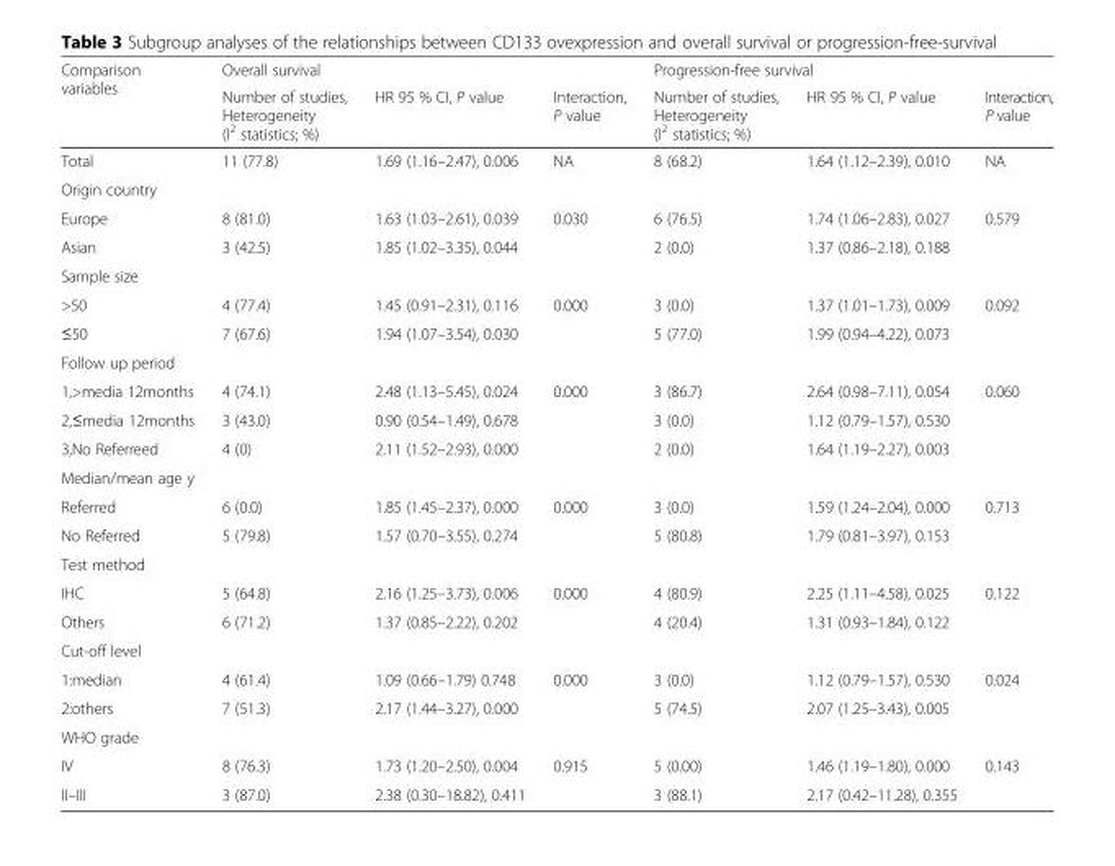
<table><thead><tr><td rowspan="2">Comparison variables</td><td colspan="3">Overall survival</td><td colspan="3">Progression-free survival</td></tr><tr><td>Number of studies, Heterogeneity (I<sup>2</sup> statistics; %)</td><td>HR 95 % CI, P value</td><td>Interaction, P value</td><td>Number of studies, Heterogeneity (I<sup>2</sup> statistics; %)</td><td>HR 95 % CI, P value</td><td>Interaction, P value</td></tr></thead><tbody><tr><td>Total</td><td>11 (77.8)</td><td>1.69 (1.16–2.47), 0.006</td><td>NA</td><td>8 (68.2)</td><td>1.64 (1.12–2.39), 0.010</td><td>NA</td></tr><tr><td colspan="7">Origin country</td></tr><tr><td>Europe</td><td>8 (81.0)</td><td>1.63 (1.03–2.61), 0.039</td><td>0.030</td><td>6 (76.5)</td><td>1.74 (1.06–2.83), 0.027</td><td>0.579</td></tr><tr><td>Asian</td><td>3 (42.5)</td><td>1.85 (1.02–3.35), 0.044</td><td></td><td>2 (0.0)</td><td>1.37 (0.86–2.18), 0.188</td><td></td></tr><tr><td colspan="7">Sample size</td></tr><tr><td>&gt;50</td><td>4 (77.4)</td><td>1.45 (0.91–2.31), 0.116</td><td>0.000</td><td>3 (0.0)</td><td>1.37 (1.01–1.73), 0.009</td><td>0.092</td></tr><tr><td>≤50</td><td>7 (67.6)</td><td>1.94 (1.07–3.54), 0.030</td><td></td><td>5 (77.0)</td><td>1.99 (0.94–4.22), 0.073</td><td></td></tr><tr><td colspan="7">Follow up period</td></tr><tr><td>1,&gt;media 12months</td><td>4 (74.1)</td><td>2.48 (1.13–5.45), 0.024</td><td>0.000</td><td>3 (86.7)</td><td>2.64 (0.98–7.11), 0.054</td><td>0.060</td></tr><tr><td>2,≤media 12months</td><td>3 (43.0)</td><td>0.90 (0.54–1.49), 0.678</td><td></td><td>3 (0.0)</td><td>1.12 (0.79–1.57), 0.530</td><td rowspan="2"></td></tr><tr><td>3,No Referreed</td><td>4 (0)</td><td>2.11 (1.52–2.93), 0.000</td><td></td><td>2 (0.0)</td><td>1.64 (1.19–2.27), 0.003</td></tr><tr><td colspan="7">Median/mean age y</td></tr><tr><td>Referred</td><td>6 (0.0)</td><td>1.85 (1.45–2.37), 0.000</td><td>0.000</td><td>3 (0.0)</td><td>1.59 (1.24–2.04), 0.000</td><td>0.713</td></tr><tr><td>No Referred</td><td>5 (79.8)</td><td>1.57 (0.70–3.55), 0.274</td><td></td><td>5 (80.8)</td><td>1.79 (0.81–3.97), 0.153</td><td></td></tr><tr><td colspan="7">Test method</td></tr><tr><td>IHC</td><td>5 (64.8)</td><td>2.16 (1.25–3.73), 0.006</td><td>0.000</td><td>4 (80.9)</td><td>2.25 (1.11–4.58), 0.025</td><td>0.122</td></tr><tr><td>Others</td><td>6 (71.2)</td><td>1.37 (0.85–2.22), 0.202</td><td></td><td>4 (20.4)</td><td>1.31 (0.93–1.84), 0.122</td><td></td></tr><tr><td colspan="7">Cut‑off level</td></tr><tr><td>1:median</td><td>4 (61.4)</td><td>1.09 (0.66–1.79) 0.748</td><td>0.000</td><td>3 (0.0)</td><td>1.12 (0.79–1.57), 0.530</td><td>0.024</td></tr><tr><td>2:others</td><td>7 (51.3)</td><td>2.17 (1.44–3.27), 0.000</td><td></td><td>5 (74.5)</td><td>2.07 (1.25–3.43), 0.005</td><td></td></tr><tr><td colspan="7">WHO grade</td></tr><tr><td>IV</td><td>8 (76.3)</td><td>1.73 (1.20–2.50), 0.004</td><td>0.915</td><td>5 (0.00)</td><td>1.46 (1.19–1.80), 0.000</td><td>0.143</td></tr><tr><td>II–III</td><td>3 (87.0)</td><td>2.38 (0.30–18.82), 0.411</td><td></td><td>3 (88.1)</td><td>2.17 (0.42–11.28), 0.355</td><td></td></tr></tbody></table>